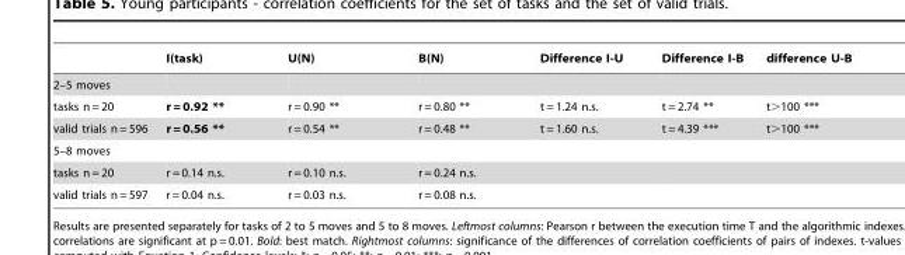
<table><thead><tr><td></td><td>I(task)</td><td>U(N)</td><td>B(N)</td><td>Difference I-U</td><td>Difference I-B</td><td>difference U-B</td></tr></thead><tbody><tr><td colspan="7">2–5 moves</td></tr><tr><td>tasks n = 20</td><td>r = 0.92 **</td><td>r = 0.90 **</td><td>r = 0.80 **</td><td>t = 1.24 n.s.</td><td>t = 2.74 **</td><td>t&gt;100 ***</td></tr><tr><td>valid trials n = 596</td><td>r = 0.56 **</td><td>r = 0.54 **</td><td>r = 0.48 **</td><td>t = 1.60 n.s.</td><td>t = 4.39 ***</td><td>t&gt;100 ***</td></tr><tr><td colspan="7">5–8 moves</td></tr><tr><td>tasks n = 20</td><td>r = 0.14 n.s.</td><td>r = 0.10 n.s.</td><td>r = 0.24 n.s.</td><td></td><td></td><td></td></tr><tr><td>valid trials n = 597</td><td>r = 0.04 n.s.</td><td>r = 0.03 n.s.</td><td>r = 0.08 n.s.</td><td></td><td></td><td></td></tr></tbody></table>